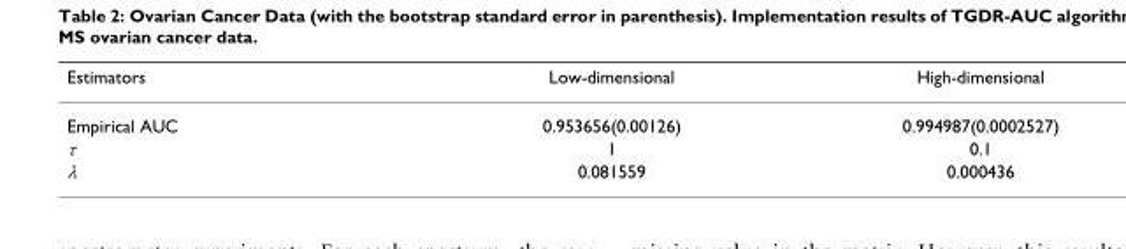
<table><thead><tr><td>Estimators</td><td>Low-dimensional</td><td>High-dimensional</td></tr></thead><tbody><tr><td>Empirical AUC</td><td>0.953656(0.00126)</td><td>0.994987(0.0002527)</td></tr><tr><td>τ</td><td>1</td><td>0.1</td></tr><tr><td>λ</td><td>0.081559</td><td>0.000436</td></tr></tbody></table>